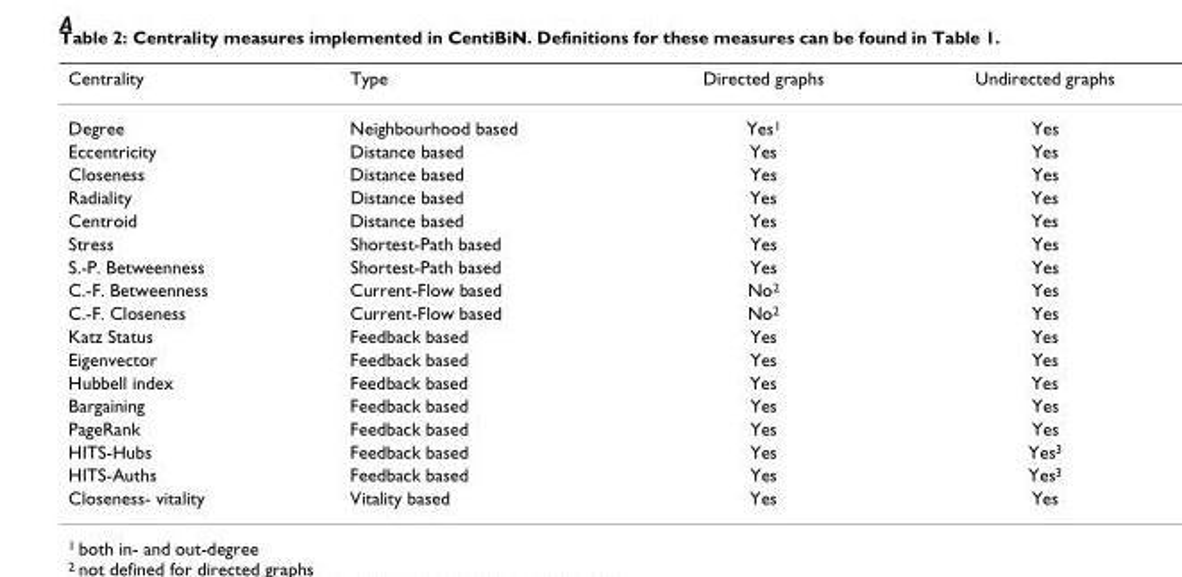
<table><thead><tr><td>Centrality</td><td>Type</td><td>Directed graphs</td><td>Undirected graphs</td></tr></thead><tbody><tr><td>Degree</td><td>Neighbourhood based</td><td>Yes1</td><td>Yes</td></tr><tr><td>Eccentricity</td><td>Distance based</td><td>Yes</td><td>Yes</td></tr><tr><td>Closeness</td><td>Distance based</td><td>Yes</td><td>Yes</td></tr><tr><td>Radiality</td><td>Distance based</td><td>Yes</td><td>Yes</td></tr><tr><td>Centroid</td><td>Distance based</td><td>Yes</td><td>Yes</td></tr><tr><td>Stress</td><td>Shortest-Path based</td><td>Yes</td><td>Yes</td></tr><tr><td>S.-P. Betweenness</td><td>Shortest-Path based</td><td>Yes</td><td>Yes</td></tr><tr><td>C.-F. Betweenness</td><td>Current-Flow based</td><td>No2</td><td>Yes</td></tr><tr><td>C.-F. Closeness</td><td>Current-Flow based</td><td>No2</td><td>Yes</td></tr><tr><td>Katz Status</td><td>Feedback based</td><td>Yes</td><td>Yes</td></tr><tr><td>Eigenvector</td><td>Feedback based</td><td>Yes</td><td>Yes</td></tr><tr><td>Hubbell index</td><td>Feedback based</td><td>Yes</td><td>Yes</td></tr><tr><td>Bargaining</td><td>Feedback based</td><td>Yes</td><td>Yes</td></tr><tr><td>PageRank</td><td>Feedback based</td><td>Yes</td><td>Yes</td></tr><tr><td>HITS-Hubs</td><td>Feedback based</td><td>Yes</td><td>Yes3</td></tr><tr><td>HITS-Auths</td><td>Feedback based</td><td>Yes</td><td>Yes3</td></tr><tr><td>Closeness- vitality</td><td>Vitality based</td><td>Yes</td><td>Yes</td></tr></tbody></table>